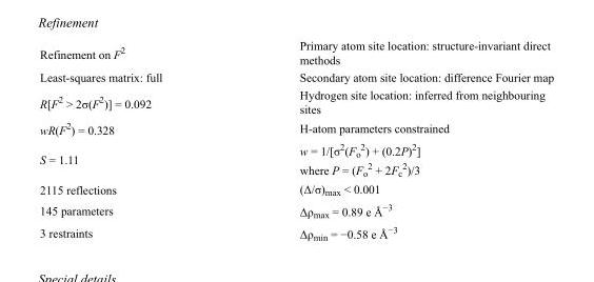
<table><tbody><tr><td>Refinement on F<sup>2</sup></td><td>Primary atom site location: structure-invariant direct methods</td></tr><tr><td>Least-squares matrix: full</td><td>Secondary atom site location: difference Fourier map</td></tr><tr><td>R[F<sup>2</sup> &gt; 2σ(F<sup>2</sup>)] = 0.092</td><td>Hydrogen site location: inferred from neighbouring sites</td></tr><tr><td>wR(F<sup>2</sup>) = 0.328</td><td>H-atom parameters constrained</td></tr><tr><td>S = 1.11</td><td>w = 1/[σ<sup>2</sup>(F<sub>o</sub> <sup>2</sup>) + (0.2P)<sup>2</sup>] where P = (F<sub>o</sub> <sup>2</sup> + 2F<sub>c</sub> <sup>2</sup>)/3</td></tr><tr><td>2115 reflections</td><td>(Δ/σ)<sub>max</sub> &lt; 0.001</td></tr><tr><td>145 parameters</td><td>Δρ<sub>max</sub> = 0.89 e Å<sup>−3</sup></td></tr><tr><td>3 restraints</td><td>Δρ<sub>min</sub> = −0.58 e Å<sup>−3</sup></td></tr></tbody></table>